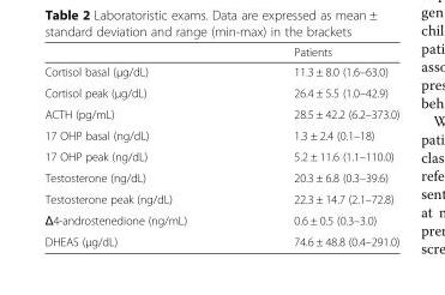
<table><thead><tr><td></td><td>Patients</td></tr></thead><tbody><tr><td>Cortisol basal (μg/dL)</td><td>11.3 ± 8.0 (1.6–63.0)</td></tr><tr><td>Cortisol peak (μg/dL)</td><td>26.4 ± 5.5 (1.0–42.9)</td></tr><tr><td>ACTH (pg/mL)</td><td>28.5 ± 42.2 (6.2–373.0)</td></tr><tr><td>17 OHP basal (ng/dL)</td><td>1.3 ± 2.4 (0.1–18)</td></tr><tr><td>17 OHP peak (ng/dL)</td><td>5.2 ± 11.6 (1.1–110.0)</td></tr><tr><td>Testosterone (ng/dL)</td><td>20.3 ± 6.8 (0.3–39.6)</td></tr><tr><td>Testosterone peak (ng/dL)</td><td>22.3 ± 14.7 (2.1–72.8)</td></tr><tr><td>Δ4-androstenedione (ng/mL)</td><td>0.6 ± 0.5 (0.3–3.0)</td></tr><tr><td>DHEAS (μg/dL)</td><td>74.6 ± 48.8 (0.4–291.0)</td></tr></tbody></table>